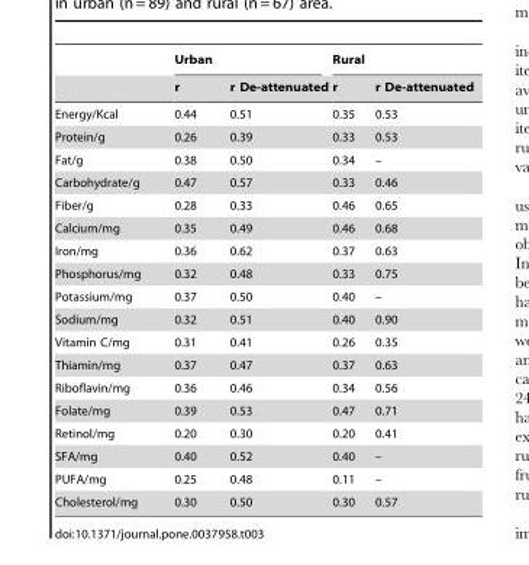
<table><thead><tr><td rowspan="2"></td><td colspan="2">Urban</td><td colspan="2">Rural</td></tr><tr><td>r</td><td>r De-attenuated</td><td>r</td><td>r De-attenuated</td></tr></thead><tbody><tr><td>Energy/Kcal</td><td>0.44</td><td>0.51</td><td>0.35</td><td>0.53</td></tr><tr><td>Protein/g</td><td>0.26</td><td>0.39</td><td>0.33</td><td>0.53</td></tr><tr><td>Fat/g</td><td>0.38</td><td>0.50</td><td>0.34</td><td>–</td></tr><tr><td>Carbohydrate/g</td><td>0.47</td><td>0.57</td><td>0.33</td><td>0.46</td></tr><tr><td>Fiber/g</td><td>0.28</td><td>0.33</td><td>0.46</td><td>0.65</td></tr><tr><td>Calcium/mg</td><td>0.35</td><td>0.49</td><td>0.46</td><td>0.68</td></tr><tr><td>Iron/mg</td><td>0.36</td><td>0.62</td><td>0.37</td><td>0.63</td></tr><tr><td>Phosphorus/mg</td><td>0.32</td><td>0.48</td><td>0.33</td><td>0.75</td></tr><tr><td>Potassium/mg</td><td>0.37</td><td>0.50</td><td>0.40</td><td>–</td></tr><tr><td>Sodium/mg</td><td>0.32</td><td>0.51</td><td>0.40</td><td>0.90</td></tr><tr><td>Vitamin C/mg</td><td>0.31</td><td>0.41</td><td>0.26</td><td>0.35</td></tr><tr><td>Thiamin/mg</td><td>0.37</td><td>0.47</td><td>0.37</td><td>0.63</td></tr><tr><td>Riboflavin/mg</td><td>0.36</td><td>0.46</td><td>0.34</td><td>0.56</td></tr><tr><td>Folate/mg</td><td>0.39</td><td>0.53</td><td>0.47</td><td>0.71</td></tr><tr><td>Retinol/mg</td><td>0.20</td><td>0.30</td><td>0.20</td><td>0.41</td></tr><tr><td>SFA/mg</td><td>0.40</td><td>0.52</td><td>0.40</td><td>–</td></tr><tr><td>PUFA/mg</td><td>0.25</td><td>0.48</td><td>0.11</td><td>–</td></tr><tr><td>Cholesterol/mg</td><td>0.30</td><td>0.50</td><td>0.30</td><td>0.57</td></tr></tbody></table>